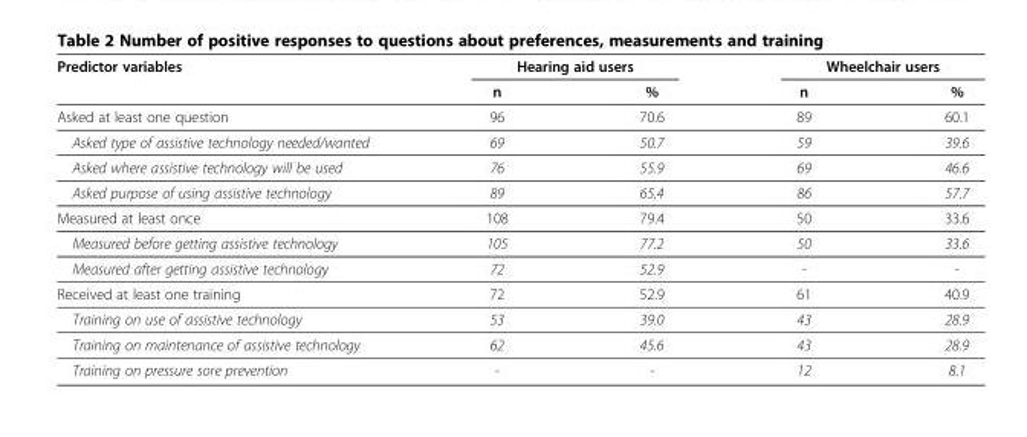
<table><thead><tr><td rowspan="2">Predictor variables</td><td colspan="2">Hearing aid users</td><td colspan="2">Wheelchair users</td></tr><tr><td>n</td><td>%</td><td>n</td><td>%</td></tr></thead><tbody><tr><td>Asked at least one question</td><td>96</td><td>70.6</td><td>89</td><td>60.1</td></tr><tr><td>Asked type of assistive technology needed/wanted</td><td>69</td><td>50.7</td><td>59</td><td>39.6</td></tr><tr><td>Asked where assistive technology will be used</td><td>76</td><td>55.9</td><td>69</td><td>46.6</td></tr><tr><td>Asked purpose of using assistive technology</td><td>89</td><td>65.4</td><td>86</td><td>57.7</td></tr><tr><td>Measured at least once</td><td>108</td><td>79.4</td><td>50</td><td>33.6</td></tr><tr><td>Measured before getting assistive technology</td><td>105</td><td>77.2</td><td>50</td><td>33.6</td></tr><tr><td>Measured after getting assistive technology</td><td>72</td><td>52.9</td><td>-</td><td>-</td></tr><tr><td>Received at least one training</td><td>72</td><td>52.9</td><td>61</td><td>40.9</td></tr><tr><td>Training on use of assistive technology</td><td>53</td><td>39.0</td><td>43</td><td>28.9</td></tr><tr><td>Training on maintenance of assistive technology</td><td>62</td><td>45.6</td><td>43</td><td>28.9</td></tr><tr><td>Training on pressure sore prevention</td><td>-</td><td>-</td><td>12</td><td>8.1</td></tr></tbody></table>